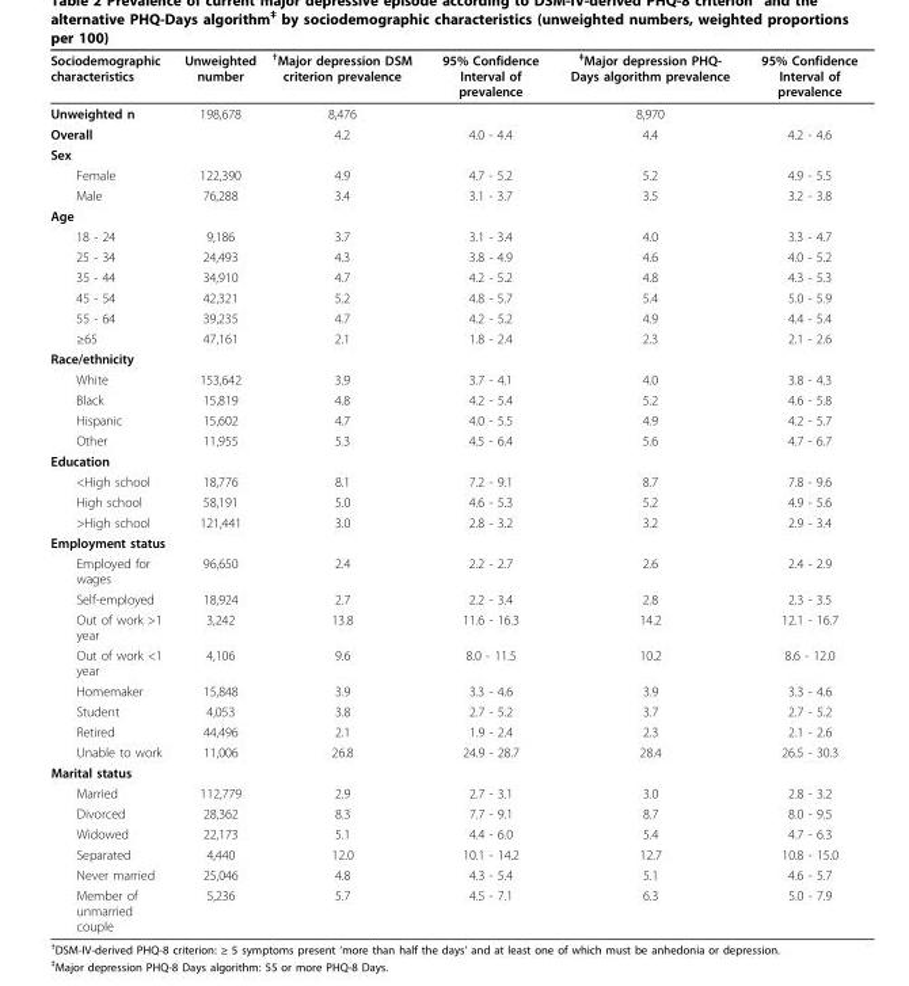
<table><thead><tr><td>Sociodemographic characteristics</td><td>Unweighted number</td><td><sup>†</sup>Major depression DSM criterion prevalence</td><td>95% Confidence Interval of prevalence</td><td><sup>‡</sup>Major depression PHQ- Days algorithm prevalence</td><td>95% Confidence Interval of prevalence</td></tr></thead><tbody><tr><td>Unweighted n</td><td>198,678</td><td>8,476</td><td></td><td>8,970</td><td></td></tr><tr><td>Overall</td><td></td><td>4.2</td><td>4.0 - 4.4</td><td>4.4</td><td>4.2 - 4.6</td></tr><tr><td colspan="6">Sex</td></tr><tr><td>Female</td><td>122,390</td><td>4.9</td><td>4.7 - 5.2</td><td>5.2</td><td>4.9 - 5.5</td></tr><tr><td>Male</td><td>76,288</td><td>3.4</td><td>3.1 - 3.7</td><td>3.5</td><td>3.2 - 3.8</td></tr><tr><td colspan="6">Age</td></tr><tr><td>18 - 24</td><td>9,186</td><td>3.7</td><td>3.1 - 3.4</td><td>4.0</td><td>3.3 - 4.7</td></tr><tr><td>25 - 34</td><td>24,493</td><td>4.3</td><td>3.8 - 4.9</td><td>4.6</td><td>4.0 - 5.2</td></tr><tr><td>35 - 44</td><td>34,910</td><td>4.7</td><td>4.2 - 5.2</td><td>4.8</td><td>4.3 - 5.3</td></tr><tr><td>45 - 54</td><td>42,321</td><td>5.2</td><td>4.8 - 5.7</td><td>5.4</td><td>5.0 - 5.9</td></tr><tr><td>55 - 64</td><td>39,235</td><td>4.7</td><td>4.2 - 5.2</td><td>4.9</td><td>4.4 - 5.4</td></tr><tr><td>≥65</td><td>47,161</td><td>2.1</td><td>1.8 - 2.4</td><td>2.3</td><td>2.1 - 2.6</td></tr><tr><td colspan="6">Race/ethnicity</td></tr><tr><td>White</td><td>153,642</td><td>3.9</td><td>3.7 - 4.1</td><td>4.0</td><td>3.8 - 4.3</td></tr><tr><td>Black</td><td>15,819</td><td>4.8</td><td>4.2 - 5.4</td><td>5.2</td><td>4.6 - 5.8</td></tr><tr><td>Hispanic</td><td>15,602</td><td>4.7</td><td>4.0 - 5.5</td><td>4.9</td><td>4.2 - 5.7</td></tr><tr><td>Other</td><td>11,955</td><td>5.3</td><td>4.5 - 6.4</td><td>5.6</td><td>4.7 - 6.7</td></tr><tr><td colspan="6">Education</td></tr><tr><td>&lt;High school</td><td>18,776</td><td>8.1</td><td>7.2 - 9.1</td><td>8.7</td><td>7.8 - 9.6</td></tr><tr><td>High school</td><td>58,191</td><td>5.0</td><td>4.6 - 5.3</td><td>5.2</td><td>4.9 - 5.6</td></tr><tr><td>&gt;High school</td><td>121,441</td><td>3.0</td><td>2.8 - 3.2</td><td>3.2</td><td>2.9 - 3.4</td></tr><tr><td colspan="6">Employment status</td></tr><tr><td>Employed for wages</td><td>96,650</td><td>2.4</td><td>2.2 - 2.7</td><td>2.6</td><td>2.4 - 2.9</td></tr><tr><td>Self-employed</td><td>18,924</td><td>2.7</td><td>2.2 - 3.4</td><td>2.8</td><td>2.3 - 3.5</td></tr><tr><td>Out of work &gt;1 year</td><td>3,242</td><td>13.8</td><td>11.6 - 16.3</td><td>14.2</td><td>12.1 - 16.7</td></tr><tr><td>Out of work &lt;1 year</td><td>4,106</td><td>9.6</td><td>8.0 - 11.5</td><td>10.2</td><td>8.6 - 12.0</td></tr><tr><td>Homemaker</td><td>15,848</td><td>3.9</td><td>3.3 - 4.6</td><td>3.9</td><td>3.3 - 4.6</td></tr><tr><td>Student</td><td>4,053</td><td>3.8</td><td>2.7 - 5.2</td><td>3.7</td><td>2.7 - 5.2</td></tr><tr><td>Retired</td><td>44,496</td><td>2.1</td><td>1.9 - 2.4</td><td>2.3</td><td>2.1 - 2.6</td></tr><tr><td>Unable to work</td><td>11,006</td><td>26.8</td><td>24.9 - 28.7</td><td>28.4</td><td>26.5 - 30.3</td></tr><tr><td colspan="6">Marital status</td></tr><tr><td>Married</td><td>112,779</td><td>2.9</td><td>2.7 - 3.1</td><td>3.0</td><td>2.8 - 3.2</td></tr><tr><td>Divorced</td><td>28,362</td><td>8.3</td><td>7.7 - 9.1</td><td>8.7</td><td>8.0 - 9.5</td></tr><tr><td>Widowed</td><td>22,173</td><td>5.1</td><td>4.4 - 6.0</td><td>5.4</td><td>4.7 - 6.3</td></tr><tr><td>Separated</td><td>4,440</td><td>12.0</td><td>10.1 - 14.2</td><td>12.7</td><td>10.8 - 15.0</td></tr><tr><td>Never married</td><td>25,046</td><td>4.8</td><td>4.3 - 5.4</td><td>5.1</td><td>4.6 - 5.7</td></tr><tr><td>Member of unmarried couple</td><td>5,236</td><td>5.7</td><td>4.5 - 7.1</td><td>6.3</td><td>5.0 - 7.9</td></tr></tbody></table>